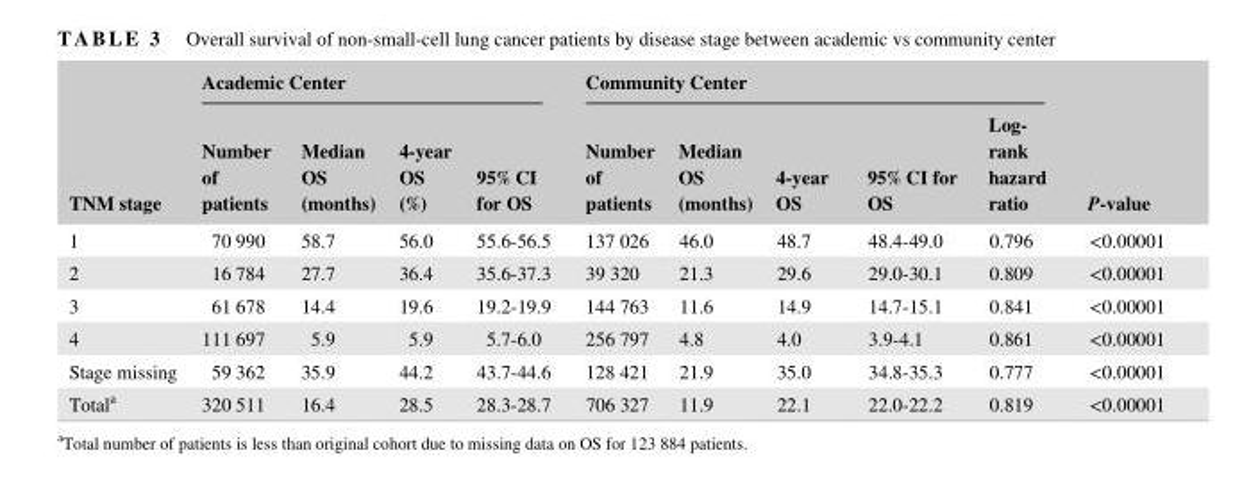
<table><thead><tr><td rowspan="2">TNM stage</td><td colspan="4">Academic Center</td><td colspan="5">Community Center</td><td rowspan="2">P- value</td></tr><tr><td>Number of patients</td><td>Median OS (months)</td><td>4- year OS (%)</td><td>95% CI for OS</td><td>Number of patients</td><td>Median OS (months)</td><td>4- year OS</td><td>95% CI for OS</td><td>Log- rank hazard ratio</td></tr></thead><tbody><tr><td>1</td><td>70 990</td><td>58.7</td><td>56.0</td><td>55.6- 56.5</td><td>137 026</td><td>46.0</td><td>48.7</td><td>48.4- 49.0</td><td>0.796</td><td>&lt;0.00001</td></tr><tr><td>2</td><td>16 784</td><td>27.7</td><td>36.4</td><td>35.6- 37.3</td><td>39 320</td><td>21.3</td><td>29.6</td><td>29.0- 30.1</td><td>0.809</td><td>&lt;0.00001</td></tr><tr><td>3</td><td>61 678</td><td>14.4</td><td>19.6</td><td>19.2- 19.9</td><td>144 763</td><td>11.6</td><td>14.9</td><td>14.7- 15.1</td><td>0.841</td><td>&lt;0.00001</td></tr><tr><td>4</td><td>111 697</td><td>5.9</td><td>5.9</td><td>5.7- 6.0</td><td>256 797</td><td>4.8</td><td>4.0</td><td>3.9- 4.1</td><td>0.861</td><td>&lt;0.00001</td></tr><tr><td>Stage missing</td><td>59 362</td><td>35.9</td><td>44.2</td><td>43.7- 44.6</td><td>128 421</td><td>21.9</td><td>35.0</td><td>34.8- 35.3</td><td>0.777</td><td>&lt;0.00001</td></tr><tr><td>Total<sup>a</sup></td><td>320 511</td><td>16.4</td><td>28.5</td><td>28.3- 28.7</td><td>706 327</td><td>11.9</td><td>22.1</td><td>22.0- 22.2</td><td>0.819</td><td>&lt;0.00001</td></tr></tbody></table>